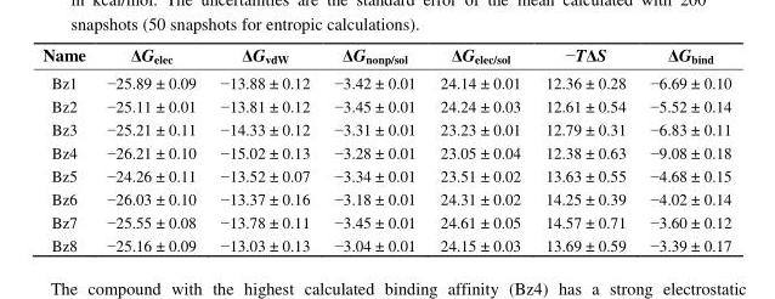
<table><thead><tr><td>Name</td><td>ΔG<sub>elec</sub></td><td>ΔG<sub>vdW</sub></td><td>ΔG<sub>nonp/sol</sub></td><td>ΔG<sub>elec/sol</sub></td><td>−TΔS</td><td>ΔG<sub>bind</sub></td></tr></thead><tbody><tr><td>Bz1</td><td>−25.89 ± 0.09</td><td>−13.88 ± 0.12</td><td>−3.42 ± 0.01</td><td>24.14 ± 0.01</td><td>12.36 ± 0.28</td><td>−6.69 ± 0.10</td></tr><tr><td>Bz2</td><td>−25.11 ± 0.01</td><td>−13.81 ± 0.12</td><td>−3.45 ± 0.01</td><td>24.24 ± 0.03</td><td>12.61 ± 0.54</td><td>−5.52 ± 0.14</td></tr><tr><td>Bz3</td><td>−25.21 ± 0.11</td><td>−14.33 ± 0.12</td><td>−3.31 ± 0.01</td><td>23.23 ± 0.01</td><td>12.79 ± 0.31</td><td>−6.83 ± 0.11</td></tr><tr><td>Bz4</td><td>−26.21 ± 0.10</td><td>−15.02 ± 0.13</td><td>−3.28 ± 0.01</td><td>23.05 ± 0.04</td><td>12.38 ± 0.63</td><td>−9.08 ± 0.18</td></tr><tr><td>Bz5</td><td>−24.26 ± 0.11</td><td>−13.52 ± 0.07</td><td>−3.34 ± 0.01</td><td>23.51 ± 0.02</td><td>13.63 ± 0.55</td><td>−4.68 ± 0.15</td></tr><tr><td>Bz6</td><td>−26.03 ± 0.10</td><td>−13.37 ± 0.16</td><td>−3.18 ± 0.01</td><td>24.31 ± 0.02</td><td>14.25 ± 0.39</td><td>−4.02 ± 0.14</td></tr><tr><td>Bz7</td><td>−25.55 ± 0.08</td><td>−13.78 ± 0.11</td><td>−3.45 ± 0.01</td><td>24.61 ± 0.05</td><td>14.57 ± 0.71</td><td>−3.60 ± 0.12</td></tr><tr><td>Bz8</td><td>−25.16 ± 0.09</td><td>−13.03 ± 0.13</td><td>−3.04 ± 0.01</td><td>24.15 ± 0.03</td><td>13.69 ± 0.59</td><td>−3.39 ± 0.17</td></tr></tbody></table>